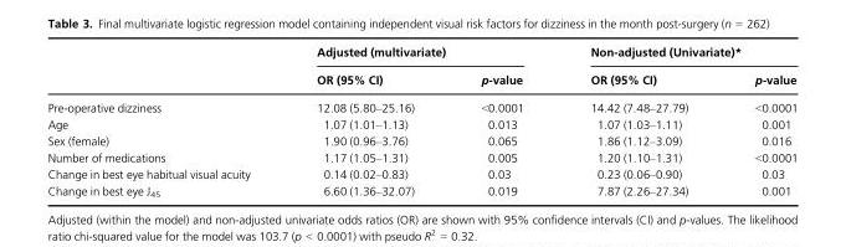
<table><thead><tr><td rowspan="2"></td><td colspan="2">Adjusted (multivariate)</td><td colspan="2">Non-adjusted (Univariate)*</td></tr><tr><td>OR (95% CI)</td><td>p-value</td><td>OR (95% CI)</td><td>p-value</td></tr></thead><tbody><tr><td>Pre-operative dizziness</td><td>12.08 (5.80–25.16)</td><td>&lt;0.0001</td><td>14.42 (7.48–27.79)</td><td>&lt;0.0001</td></tr><tr><td>Age</td><td>1.07 (1.01–1.13)</td><td>0.013</td><td>1.07 (1.03–1.11)</td><td>0.001</td></tr><tr><td>Sex (female)</td><td>1.90 (0.96–3.76)</td><td>0.065</td><td>1.86 (1.12–3.09)</td><td>0.016</td></tr><tr><td>Number of medications</td><td>1.17 (1.05–1.31)</td><td>0.005</td><td>1.20 (1.10–1.31)</td><td>&lt;0.0001</td></tr><tr><td>Change in best eye habitual visual acuity</td><td>0.14 (0.02–0.83)</td><td>0.03</td><td>0.23 (0.06–0.90)</td><td>0.03</td></tr><tr><td>Change in best eye J<sub>45</sub></td><td>6.60 (1.36–32.07)</td><td>0.019</td><td>7.87 (2.26–27.34)</td><td>0.001</td></tr></tbody></table>